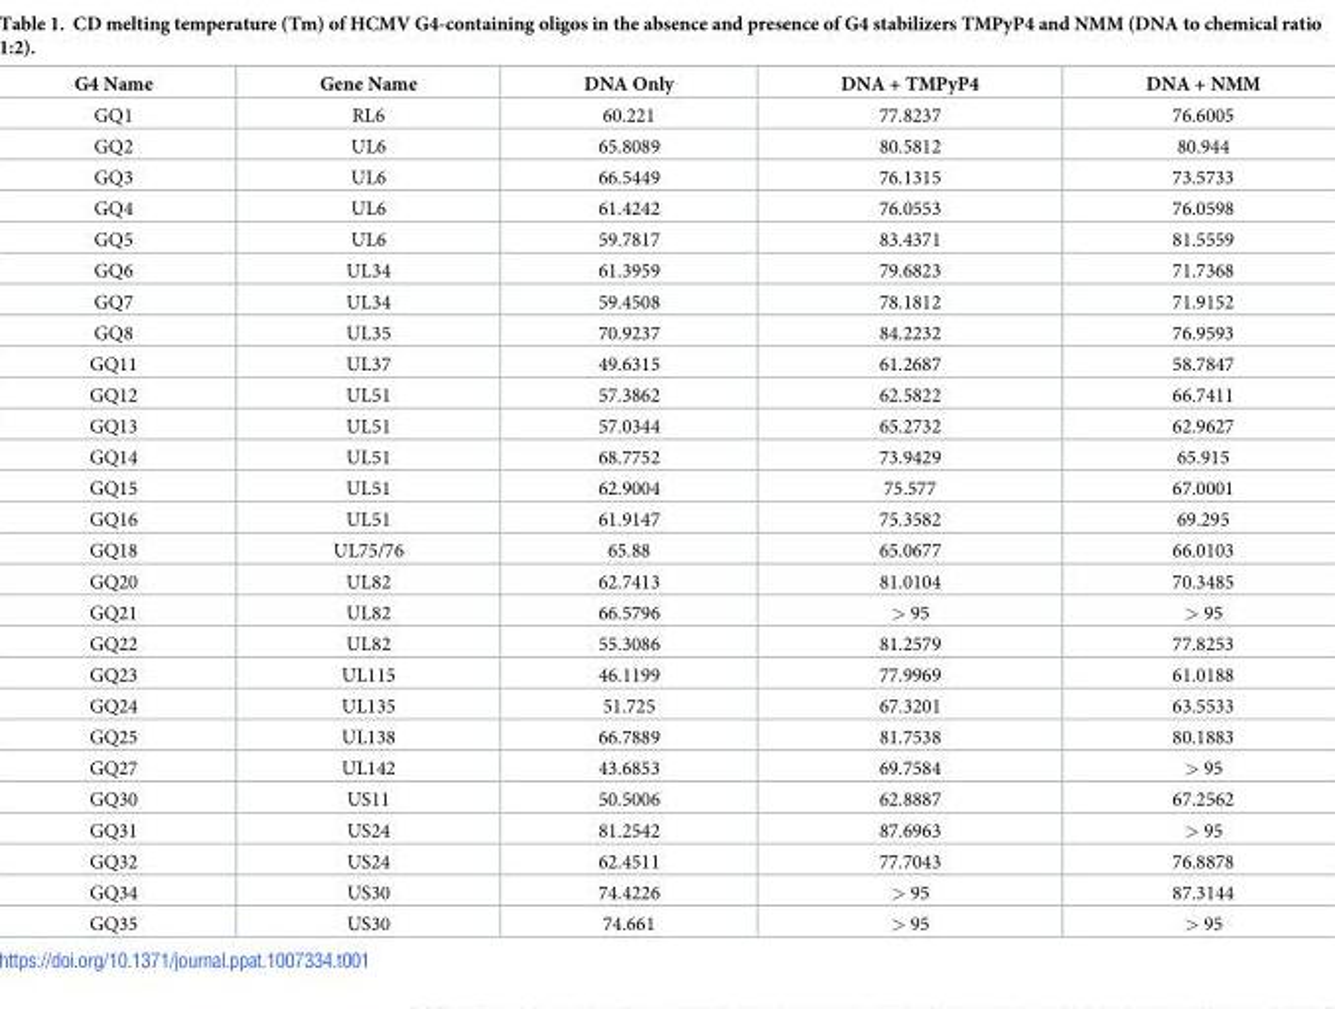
<table><thead><tr><td>G4 Name</td><td>Gene Name</td><td>DNA Only</td><td>DNA + TMPyP4</td><td>DNA + NMM</td></tr></thead><tbody><tr><td>GQ1</td><td>RL6</td><td>60.221</td><td>77.8237</td><td>76.6005</td></tr><tr><td>GQ2</td><td>UL6</td><td>65.8089</td><td>80.5812</td><td>80.944</td></tr><tr><td>GQ3</td><td>UL6</td><td>66.5449</td><td>76.1315</td><td>73.5733</td></tr><tr><td>GQ4</td><td>UL6</td><td>61.4242</td><td>76.0553</td><td>76.0598</td></tr><tr><td>GQ5</td><td>UL6</td><td>59.7817</td><td>83.4371</td><td>81.5559</td></tr><tr><td>GQ6</td><td>UL34</td><td>61.3959</td><td>79.6823</td><td>71.7368</td></tr><tr><td>GQ7</td><td>UL34</td><td>59.4508</td><td>78.1812</td><td>71.9152</td></tr><tr><td>GQ8</td><td>UL35</td><td>70.9237</td><td>84.2232</td><td>76.9593</td></tr><tr><td>GQ11</td><td>UL37</td><td>49.6315</td><td>61.2687</td><td>58.7847</td></tr><tr><td>GQ12</td><td>UL51</td><td>57.3862</td><td>62.5822</td><td>66.7411</td></tr><tr><td>GQ13</td><td>UL51</td><td>57.0344</td><td>65.2732</td><td>62.9627</td></tr><tr><td>GQ14</td><td>UL51</td><td>68.7752</td><td>73.9429</td><td>65.915</td></tr><tr><td>GQ15</td><td>UL51</td><td>62.9004</td><td>75.577</td><td>67.0001</td></tr><tr><td>GQ16</td><td>UL51</td><td>61.9147</td><td>75.3582</td><td>69.295</td></tr><tr><td>GQ18</td><td>UL75/76</td><td>65.88</td><td>65.0677</td><td>66.0103</td></tr><tr><td>GQ20</td><td>UL82</td><td>62.7413</td><td>81.0104</td><td>70.3485</td></tr><tr><td>GQ21</td><td>UL82</td><td>66.5796</td><td>&gt; 95</td><td>&gt; 95</td></tr><tr><td>GQ22</td><td>UL82</td><td>55.3086</td><td>81.2579</td><td>77.8253</td></tr><tr><td>GQ23</td><td>UL115</td><td>46.1199</td><td>77.9969</td><td>61.0188</td></tr><tr><td>GQ24</td><td>UL135</td><td>51.725</td><td>67.3201</td><td>63.5533</td></tr><tr><td>GQ25</td><td>UL138</td><td>66.7889</td><td>81.7538</td><td>80.1883</td></tr><tr><td>GQ27</td><td>UL142</td><td>43.6853</td><td>69.7584</td><td>&gt; 95</td></tr><tr><td>GQ30</td><td>US11</td><td>50.5006</td><td>62.8887</td><td>67.2562</td></tr><tr><td>GQ31</td><td>US24</td><td>81.2542</td><td>87.6963</td><td>&gt; 95</td></tr><tr><td>GQ32</td><td>US24</td><td>62.4511</td><td>77.7043</td><td>76.8878</td></tr><tr><td>GQ34</td><td>US30</td><td>74.4226</td><td>&gt; 95</td><td>87.3144</td></tr><tr><td>GQ35</td><td>US30</td><td>74.661</td><td>&gt; 95</td><td>&gt; 95</td></tr></tbody></table>